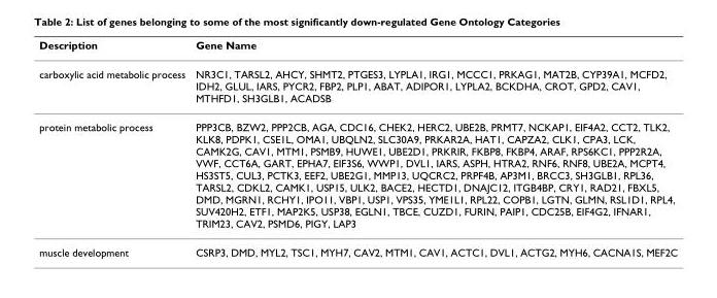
<table><thead><tr><td>Description</td><td>Gene Name</td></tr></thead><tbody><tr><td>carboxylic acid metabolic process</td><td>NR3C1, TARSL2, AHCY, SHMT2, PTGES3, LYPLA1, IRG1, MCCC1, PRKAG1, MAT2B, CYP39A1, MCFD2, IDH2, GLUL, IARS, PYCR2, FBP2, PLP1, ABAT, ADIPOR1, LYPLA2, BCKDHA, CROT, GPD2, CAV1, MTHFD1, SH3GLB1, ACADSB</td></tr><tr><td>protein metabolic process</td><td>PPP3CB, BZW2, PPP2CB, AGA, CDC16, CHEK2, HERC2, UBE2B, PRMT7, NCKAP1, EIF4A2, CCT2, TLK2, KLK8, PDPK1, CSE1L, OMA1, UBQLN2, SLC30A9, PRKAR2A, HAT1, CAPZA2, CLK1, CPA3, LCK, CAMK2G, CAV1, MTM1, PSMB9, HUWE1, UBE2D1, PRKRIR, FKBP8, FKBP4, ARAF, RPS6KC1, PPP2R2A, VWF, CCT6A, GART, EPHA7, EIF3S6, WWP1, DVL1, IARS, ASPH, HTRA2, RNF6, RNF8, UBE2A, MCPT4, HS3ST5, CUL3, PCTK3, EEF2, UBE2G1, MMP13, UQCRC2, PRPF4B, AP3M1, BRCC3, SH3GLB1, RPL36, TARSL2, CDKL2, CAMK1, USP15, ULK2, BACE2, HECTD1, DNAJC12, ITGB4BP, CRY1, RAD21, FBXL5, DMD, MGRN1, RCHY1, IPO11, VBP1, USP1, VPS35, YME1L1, RPL22, COPB1, LGTN, GLMN, RSL1D1, RPL4, SUV420H2, ETF1, MAP2K5, USP38, EGLN1, TBCE, CUZD1, FURIN, PAIP1, CDC25B, EIF4G2, IFNAR1, TRIM23, CAV2, PSMD6, PIGY, LAP3</td></tr><tr><td>muscle development</td><td>CSRP3, DMD, MYL2, TSC1, MYH7, CAV2, MTM1, CAV1, ACTC1, DVL1, ACTG2, MYH6, CACNA1S, MEF2C</td></tr></tbody></table>